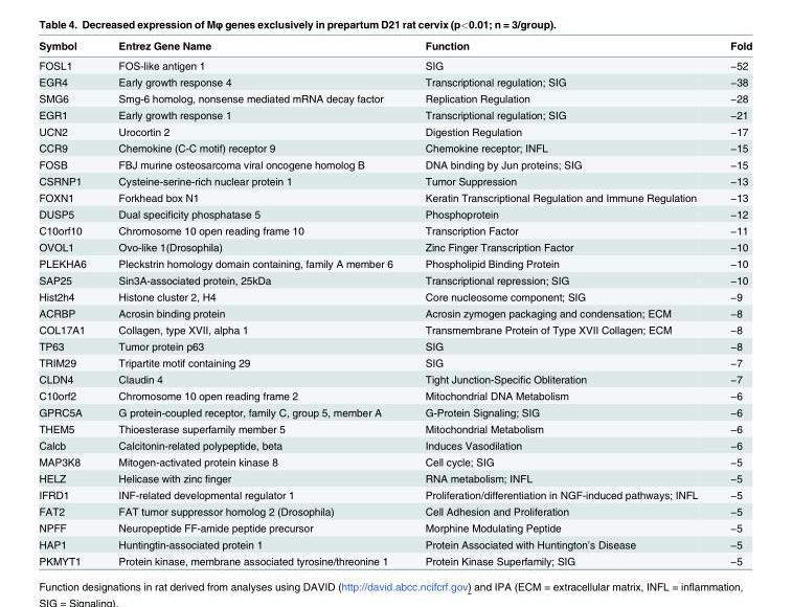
<table><thead><tr><td>Symbol</td><td>Entrez Gene Name</td><td>Function</td><td>Fold</td></tr></thead><tbody><tr><td>FOSL1</td><td>FOS-like antigen 1</td><td>SIG</td><td>−52</td></tr><tr><td>EGR4</td><td>Early growth response 4</td><td>Transcriptional regulation; SIG</td><td>−38</td></tr><tr><td>SMG6</td><td>Smg-6 homolog, nonsense mediated mRNA decay factor</td><td>Replication Regulation</td><td>−28</td></tr><tr><td>EGR1</td><td>Early growth response 1</td><td>Transcriptional regulation; SIG</td><td>−21</td></tr><tr><td>UCN2</td><td>Urocortin 2</td><td>Digestion Regulation</td><td>−17</td></tr><tr><td>CCR9</td><td>Chemokine (C-C motif) receptor 9</td><td>Chemokine receptor; INFL</td><td>−15</td></tr><tr><td>FOSB</td><td>FBJ murine osteosarcoma viral oncogene homolog B</td><td>DNA binding by Jun proteins; SIG</td><td>−15</td></tr><tr><td>CSRNP1</td><td>Cysteine-serine-rich nuclear protein 1</td><td>Tumor Suppression</td><td>−13</td></tr><tr><td>FOXN1</td><td>Forkhead box N1</td><td>Keratin Transcriptional Regulation and Immune Regulation</td><td>−13</td></tr><tr><td>DUSP5</td><td>Dual specificity phosphatase 5</td><td>Phosphoprotein</td><td>−12</td></tr><tr><td>C10orf10</td><td>Chromosome 10 open reading frame 10</td><td>Transcription Factor</td><td>−11</td></tr><tr><td>OVOL1</td><td>Ovo-like 1(Drosophila)</td><td>Zinc Finger Transcription Factor</td><td>−10</td></tr><tr><td>PLEKHA6</td><td>Pleckstrin homology domain containing, family A member 6</td><td>Phospholipid Binding Protein</td><td>−10</td></tr><tr><td>SAP25</td><td>Sin3A-associated protein, 25kDa</td><td>Transcriptional repression; SIG</td><td>−10</td></tr><tr><td>Hist2h4</td><td>Histone cluster 2, H4</td><td>Core nucleosome component; SIG</td><td>−9</td></tr><tr><td>ACRBP</td><td>Acrosin binding protein</td><td>Acrosin zymogen packaging and condensation; ECM</td><td>−8</td></tr><tr><td>COL17A1</td><td>Collagen, type XVII, alpha 1</td><td>Transmembrane Protein of Type XVII Collagen; ECM</td><td>−8</td></tr><tr><td>TP63</td><td>Tumor protein p63</td><td>SIG</td><td>−8</td></tr><tr><td>TRIM29</td><td>Tripartite motif containing 29</td><td>SIG</td><td>−7</td></tr><tr><td>CLDN4</td><td>Claudin 4</td><td>Tight Junction-Specific Obliteration</td><td>−7</td></tr><tr><td>C10orf2</td><td>Chromosome 10 open reading frame 2</td><td>Mitochondrial DNA Metabolism</td><td>−6</td></tr><tr><td>GPRC5A</td><td>G protein-coupled receptor, family C, group 5, member A</td><td>G-Protein Signaling; SIG</td><td>−6</td></tr><tr><td>THEM5</td><td>Thioesterase superfamily member 5</td><td>Mitochondrial Metabolism</td><td>−6</td></tr><tr><td>Calcb</td><td>Calcitonin-related polypeptide, beta</td><td>Induces Vasodilation</td><td>−6</td></tr><tr><td>MAP3K8</td><td>Mitogen-activated protein kinase 8</td><td>Cell cycle; SIG</td><td>−5</td></tr><tr><td>HELZ</td><td>Helicase with zinc finger</td><td>RNA metabolism; INFL</td><td>−5</td></tr><tr><td>IFRD1</td><td>INF-related developmental regulator 1</td><td>Proliferation/differentiation in NGF-induced pathways; INFL</td><td>−5</td></tr><tr><td>FAT2</td><td>FAT tumor suppressor homolog 2 (Drosophila)</td><td>Cell Adhesion and Proliferation</td><td>−5</td></tr><tr><td>NPFF</td><td>Neuropeptide FF-amide peptide precursor</td><td>Morphine Modulating Peptide</td><td>−5</td></tr><tr><td>HAP1</td><td>Huntingtin-associated protein 1</td><td>Protein Associated with Huntington’s Disease</td><td>−5</td></tr><tr><td>PKMYT1</td><td>Protein kinase, membrane associated tyrosine/threonine 1</td><td>Protein Kinase Superfamily; SIG</td><td>−5</td></tr></tbody></table>